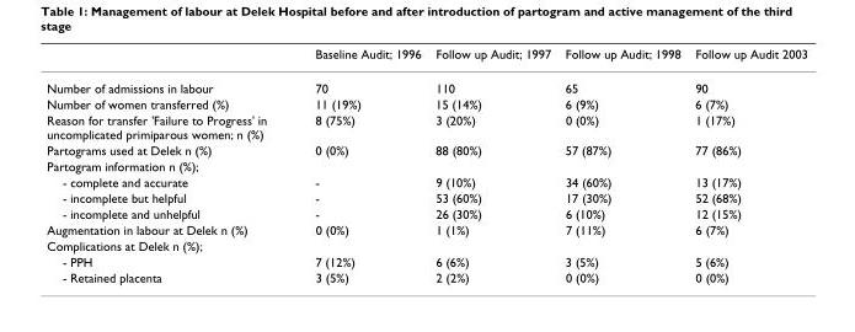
<table><thead><tr><td></td><td>Baseline Audit; 1996</td><td>Follow up Audit; 1997</td><td>Follow up Audit; 1998</td><td>Follow up Audit 2003</td></tr></thead><tbody><tr><td>Number of admissions in labour</td><td>70</td><td>110</td><td>65</td><td>90</td></tr><tr><td>Number of women transferred (%)</td><td>11 (19%)</td><td>15 (14%)</td><td>6 (9%)</td><td>6 (7%)</td></tr><tr><td>Reason for transfer &#x27;Failure to Progress&#x27; in uncomplicated primiparous women; n (%)</td><td>8 (75%)</td><td>3 (20%)</td><td>0 (0%)</td><td>1 (17%)</td></tr><tr><td>Partograms used at Delek n (%)</td><td>0 (0%)</td><td>88 (80%)</td><td>57 (87%)</td><td>77 (86%)</td></tr><tr><td colspan="5">Partogram information n (%);</td></tr><tr><td>- complete and accurate</td><td>-</td><td>9 (10%)</td><td>34 (60%)</td><td>13 (17%)</td></tr><tr><td>- incomplete but helpful</td><td>-</td><td>53 (60%)</td><td>17 (30%)</td><td>52 (68%)</td></tr><tr><td>- incomplete and unhelpful</td><td>-</td><td>26 (30%)</td><td>6 (10%)</td><td>12 (15%)</td></tr><tr><td>Augmentation in labour at Delek n (%)</td><td>0 (0%)</td><td>1 (1%)</td><td>7 (11%)</td><td>6 (7%)</td></tr><tr><td colspan="5">Complications at Delek n (%);</td></tr><tr><td>- PPH</td><td>7 (12%)</td><td>6 (6%)</td><td>3 (5%)</td><td>5 (6%)</td></tr><tr><td>- Retained placenta</td><td>3 (5%)</td><td>2 (2%)</td><td>0 (0%)</td><td>0 (0%)</td></tr></tbody></table>